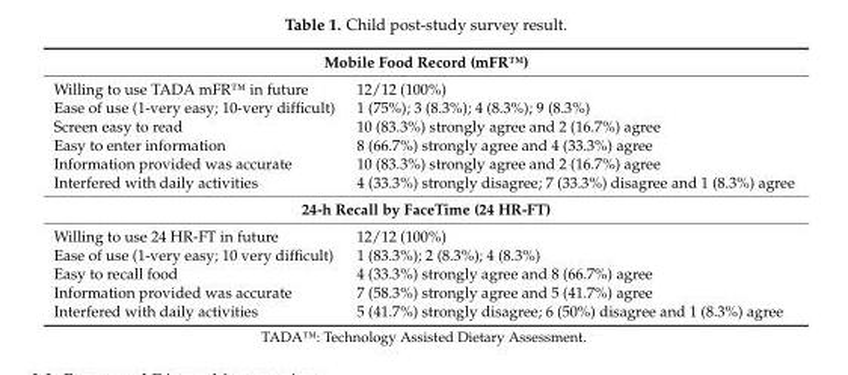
<table><tbody><tr><td colspan="2">Mobile Food Record (mFR™)</td></tr><tr><td>Willing to use TADA mFR™ in future</td><td>12/12 (100%)</td></tr><tr><td>Ease of use (1-very easy; 10-very difficult)</td><td>1 (75%); 3 (8.3%); 4 (8.3%); 9 (8.3%)</td></tr><tr><td>Screen easy to read</td><td>10 (83.3%) strongly agree and 2 (16.7%) agree</td></tr><tr><td>Easy to enter information</td><td>8 (66.7%) strongly agree and 4 (33.3%) agree</td></tr><tr><td>Information provided was accurate</td><td>10 (83.3%) strongly agree and 2 (16.7%) agree</td></tr><tr><td>Interfered with daily activities</td><td>4 (33.3%) strongly disagree; 7 (33.3%) disagree and 1 (8.3%) agree</td></tr><tr><td colspan="2">24-h Recall by FaceTime (24 HR-FT)</td></tr><tr><td>Willing to use 24 HR-FT in future</td><td>12/12 (100%)</td></tr><tr><td>Ease of use (1-very easy; 10 very difficult)</td><td>1 (83.3%); 2 (8.3%); 4 (8.3%)</td></tr><tr><td>Easy to recall food</td><td>4 (33.3%) strongly agree and 8 (66.7%) agree</td></tr><tr><td>Information provided was accurate</td><td>7 (58.3%) strongly agree and 5 (41.7%) agree</td></tr><tr><td>Interfered with daily activities</td><td>5 (41.7%) strongly disagree; 6 (50%) disagree and 1 (8.3%) agree</td></tr></tbody></table>